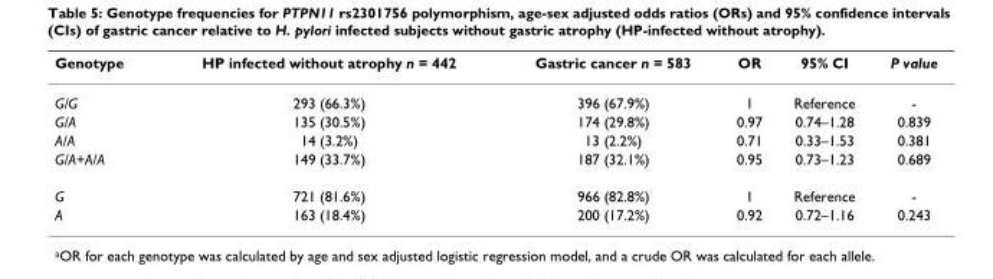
<table><thead><tr><td>Genotype</td><td>HP infected without atrophy n = 442</td><td>Gastric cancer n = 583</td><td>OR</td><td>95% CI</td><td>P value</td></tr></thead><tbody><tr><td>G/G</td><td>293 (66.3%)</td><td>396 (67.9%)</td><td>1</td><td>Reference</td><td>-</td></tr><tr><td>G/A</td><td>135 (30.5%)</td><td>174 (29.8%)</td><td>0.97</td><td>0.74–1.28</td><td>0.839</td></tr><tr><td>A/A</td><td>14 (3.2%)</td><td>13 (2.2%)</td><td>0.71</td><td>0.33–1.53</td><td>0.381</td></tr><tr><td>G/A+A/A</td><td>149 (33.7%)</td><td>187 (32.1%)</td><td>0.95</td><td>0.73–1.23</td><td>0.689</td></tr><tr><td>G</td><td>721 (81.6%)</td><td>966 (82.8%)</td><td>1</td><td>Reference</td><td>-</td></tr><tr><td>A</td><td>163 (18.4%)</td><td>200 (17.2%)</td><td>0.92</td><td>0.72–1.16</td><td>0.243</td></tr></tbody></table>